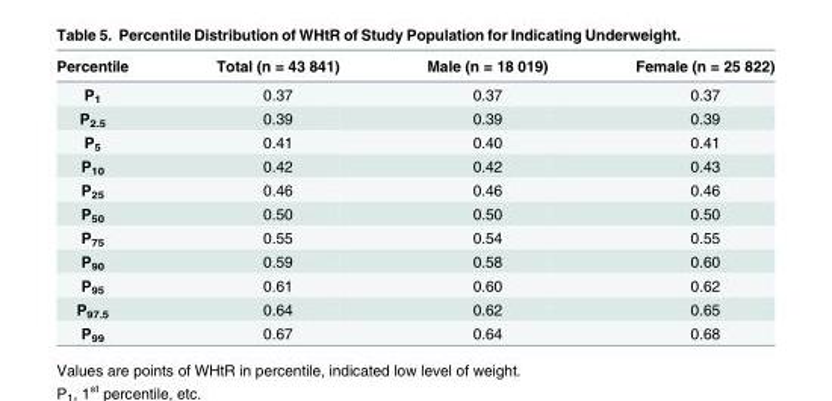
<table><thead><tr><td>Percentile</td><td>Total (n = 43 841)</td><td>Male (n = 18 019)</td><td>Female (n = 25 822)</td></tr></thead><tbody><tr><td>P<sub>1</sub></td><td>0.37</td><td>0.37</td><td>0.37</td></tr><tr><td>P<sub>2.5</sub></td><td>0.39</td><td>0.39</td><td>0.39</td></tr><tr><td>P<sub>5</sub></td><td>0.41</td><td>0.40</td><td>0.41</td></tr><tr><td>P<sub>10</sub></td><td>0.42</td><td>0.42</td><td>0.43</td></tr><tr><td>P<sub>25</sub></td><td>0.46</td><td>0.46</td><td>0.46</td></tr><tr><td>P<sub>50</sub></td><td>0.50</td><td>0.50</td><td>0.50</td></tr><tr><td>P<sub>75</sub></td><td>0.55</td><td>0.54</td><td>0.55</td></tr><tr><td>P<sub>90</sub></td><td>0.59</td><td>0.58</td><td>0.60</td></tr><tr><td>P<sub>95</sub></td><td>0.61</td><td>0.60</td><td>0.62</td></tr><tr><td>P<sub>97.5</sub></td><td>0.64</td><td>0.62</td><td>0.65</td></tr><tr><td>P<sub>99</sub></td><td>0.67</td><td>0.64</td><td>0.68</td></tr></tbody></table>